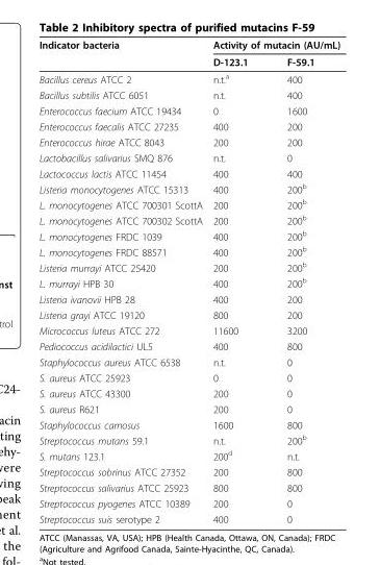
<table><thead><tr><td rowspan="2">Indicator bacteria</td><td colspan="2">Activity of mutacin (AU/mL)</td></tr><tr><td>D-123.1</td><td>F-59.1</td></tr></thead><tbody><tr><td>Bacillus cereus ATCC 2</td><td>n.t.<sup>a</sup></td><td>400</td></tr><tr><td>Bacillus subtilis ATCC 6051</td><td>n.t.</td><td>400</td></tr><tr><td>Enterococcus faecium ATCC 19434</td><td>0</td><td>1600</td></tr><tr><td>Enterococcus faecalis ATCC 27235</td><td>400</td><td>200</td></tr><tr><td>Enterococcus hirae ATCC 8043</td><td>200</td><td>200</td></tr><tr><td>Lactobacillus salivarius SMQ 876</td><td>n.t.</td><td>0</td></tr><tr><td>Lactococcus lactis ATCC 11454</td><td>400</td><td>400</td></tr><tr><td>Listeria monocytogenes ATCC 15313</td><td>400</td><td>200<sup>b</sup></td></tr><tr><td>L. monocytogenes ATCC 700301 ScottA</td><td>200</td><td>200<sup>b</sup></td></tr><tr><td>L. monocytogenes ATCC 700302 ScottA</td><td>200</td><td>200<sup>b</sup></td></tr><tr><td>L. monocytogenes FRDC 1039</td><td>400</td><td>200<sup>b</sup></td></tr><tr><td>L. monocytogenes FRDC 88571</td><td>400</td><td>200<sup>b</sup></td></tr><tr><td>Listeria murrayi ATCC 25420</td><td>200</td><td>200<sup>b</sup></td></tr><tr><td>L. murrayi HPB 30</td><td>400</td><td>200<sup>b</sup></td></tr><tr><td>Listeria ivanovii HPB 28</td><td>400</td><td>200</td></tr><tr><td>Listeria grayi ATCC 19120</td><td>800</td><td>200</td></tr><tr><td>Micrococcus luteus ATCC 272</td><td>11600</td><td>3200</td></tr><tr><td>Pediococcus acidilactici UL5</td><td>400</td><td>800</td></tr><tr><td>Staphylococcus aureus ATCC 6538</td><td>n.t.</td><td>0</td></tr><tr><td>S. aureus ATCC 25923</td><td>0</td><td>0</td></tr><tr><td>S. aureus ATCC 43300</td><td>200</td><td>0</td></tr><tr><td>S. aureus R621</td><td>200</td><td>0</td></tr><tr><td>Staphylococcus carnosus</td><td>1600</td><td>800</td></tr><tr><td>Streptococcus mutans 59.1</td><td>n.t.</td><td>200<sup>b</sup></td></tr><tr><td>S. mutans 123.1</td><td>200<sup>d</sup></td><td>n.t.</td></tr><tr><td>Streptococcus sobrinus ATCC 27352</td><td>200</td><td>800</td></tr><tr><td>Streptococcus salivarius ATCC 25923</td><td>800</td><td>800</td></tr><tr><td>Streptococcus pyogenes ATCC 10389</td><td>200</td><td>0</td></tr><tr><td>Streptococcus suis serotype 2</td><td>400</td><td>0</td></tr></tbody></table>